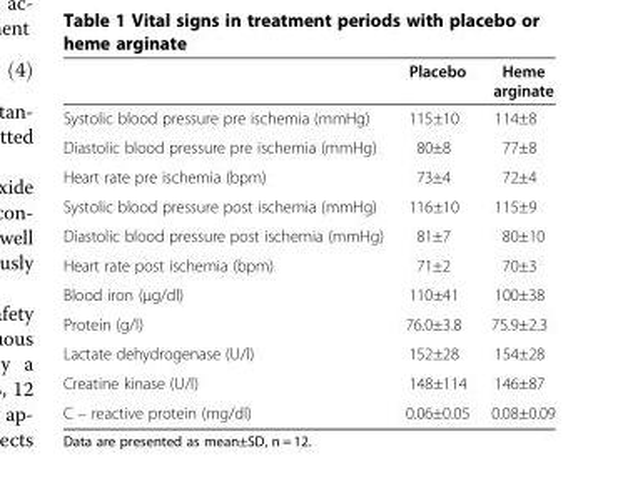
<table><thead><tr><td></td><td>Placebo</td><td>Heme arginate</td></tr></thead><tbody><tr><td>Systolic blood pressure pre ischemia (mmHg)</td><td>115±10</td><td>114±8</td></tr><tr><td>Diastolic blood pressure pre ischemia (mmHg)</td><td>80±8</td><td>77±8</td></tr><tr><td>Heart rate pre ischemia (bpm)</td><td>73±4</td><td>72±4</td></tr><tr><td>Systolic blood pressure post ischemia (mmHg)</td><td>116±10</td><td>115±9</td></tr><tr><td>Diastolic blood pressure post ischemia (mmHg)</td><td>81±7</td><td>80±10</td></tr><tr><td>Heart rate post ischemia (bpm)</td><td>71±2</td><td>70±3</td></tr><tr><td>Blood iron (μg/dl)</td><td>110±41</td><td>100±38</td></tr><tr><td>Protein (g/l)</td><td>76.0±3.8</td><td>75.9±2.3</td></tr><tr><td>Lactate dehydrogenase (U/l)</td><td>152±28</td><td>154±28</td></tr><tr><td>Creatine kinase (U/l)</td><td>148±114</td><td>146±87</td></tr><tr><td>C – reactive protein (mg/dl)</td><td>0.06±0.05</td><td>0.08±0.09</td></tr></tbody></table>